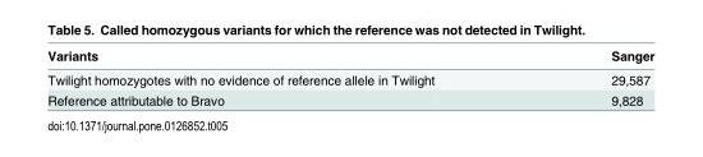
<table><thead><tr><td>Variants</td><td>Sanger</td></tr></thead><tbody><tr><td>Twilight homozygotes with no evidence of reference allele in Twilight</td><td>29,587</td></tr><tr><td>Reference attributable to Bravo</td><td>9,828</td></tr></tbody></table>